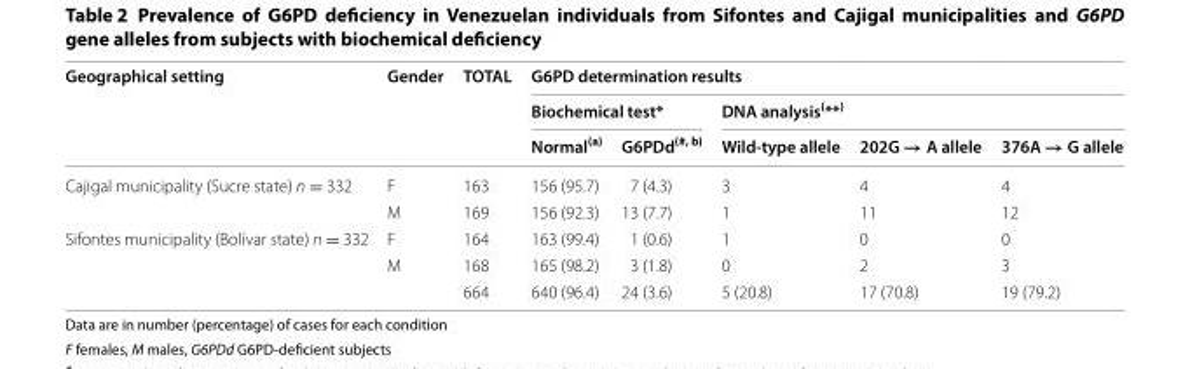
<table><thead><tr><td rowspan="3">Geographical setting</td><td rowspan="3">Gender</td><td rowspan="3">TOTAL</td><td colspan="5">G6PD determination results</td></tr><tr><td colspan="2">Biochemical test*</td><td colspan="3">DNA analysis<sup>(</sup>**<sup>)</sup></td></tr><tr><td>Normal<sup>(a)</sup></td><td>G6PDd<sup>(#, b)</sup></td><td>Wild-type allele</td><td>202G → A allele</td><td>376A → G allele</td></tr></thead><tbody><tr><td rowspan="2">Cajigal municipality (Sucre state) n = 332</td><td>F</td><td>163</td><td>156 (95.7)</td><td>7 (4.3)</td><td>3</td><td>4</td><td>4</td></tr><tr><td>M</td><td>169</td><td>156 (92.3)</td><td>13 (7.7)</td><td>1</td><td>11</td><td>12</td></tr><tr><td rowspan="3">Sifontes municipality (Bolívar state) n = 332</td><td>F</td><td>164</td><td>163 (99.4)</td><td>1 (0.6)</td><td>1</td><td>0</td><td>0</td></tr><tr><td>M</td><td>168</td><td>165 (98.2)</td><td>3 (1.8)</td><td>0</td><td>2</td><td>3</td></tr><tr><td></td><td>664</td><td>640 (96.4)</td><td>24 (3.6)</td><td>5 (20.8)</td><td>17 (70.8)</td><td>19 (79.2)</td></tr></tbody></table>